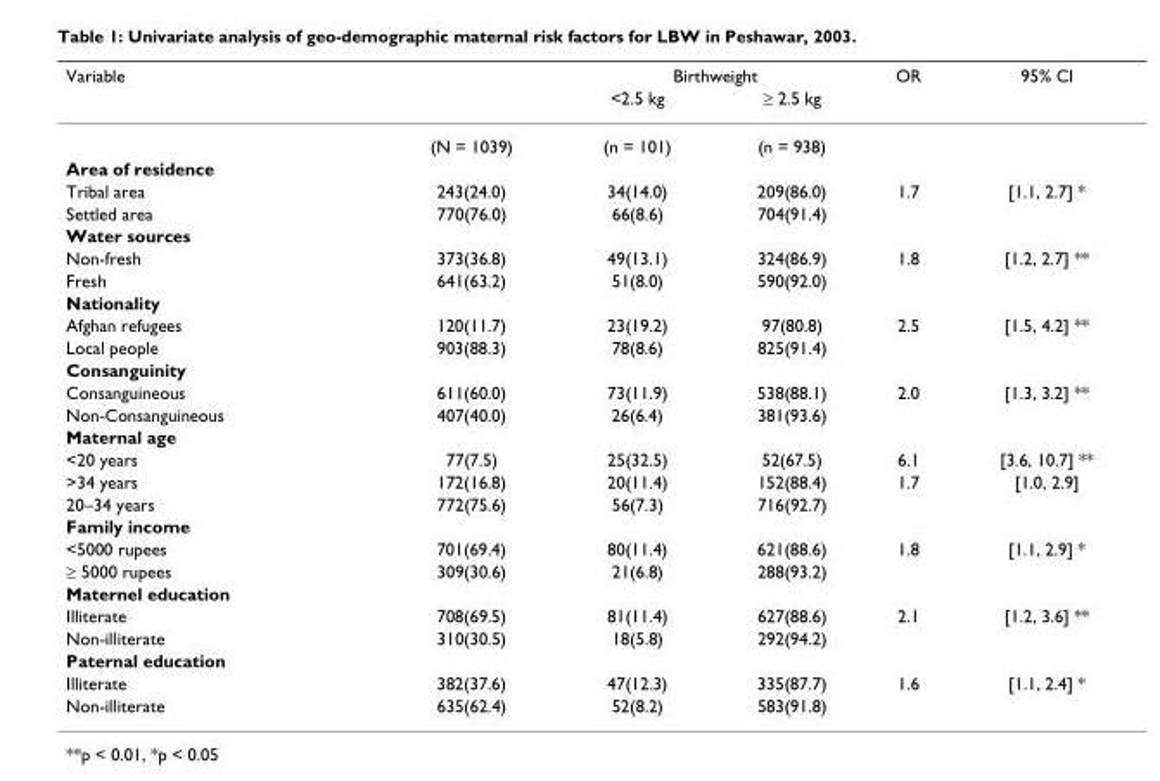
<table><thead><tr><td rowspan="2">Variable</td><td rowspan="2"></td><td colspan="2">Birthweight</td><td rowspan="2">OR</td><td rowspan="2">95% CI</td></tr><tr><td>&lt;2.5 kg</td><td>≥ 2.5 kg</td></tr></thead><tbody><tr><td></td><td>(N = 1039)</td><td>(n = 101)</td><td>(n = 938)</td><td></td><td></td></tr><tr><td colspan="6">Area of residence</td></tr><tr><td>Tribal area</td><td>243(24.0)</td><td>34(14.0)</td><td>209(86.0)</td><td>1.7</td><td>[1.1, 2.7] *</td></tr><tr><td>Settled area</td><td>770(76.0)</td><td>66(8.6)</td><td>704(91.4)</td><td></td><td></td></tr><tr><td colspan="6">Water sources</td></tr><tr><td>Non-fresh</td><td>373(36.8)</td><td>49(13.1)</td><td>324(86.9)</td><td>1.8</td><td>[1.2, 2.7] **</td></tr><tr><td>Fresh</td><td>641(63.2)</td><td>51(8.0)</td><td>590(92.0)</td><td></td><td></td></tr><tr><td colspan="6">Nationality</td></tr><tr><td>Afghan refugees</td><td>120(11.7)</td><td>23(19.2)</td><td>97(80.8)</td><td>2.5</td><td>[1.5, 4.2] **</td></tr><tr><td>Local people</td><td>903(88.3)</td><td>78(8.6)</td><td>825(91.4)</td><td></td><td></td></tr><tr><td colspan="6">Consanguinity</td></tr><tr><td>Consanguineous</td><td>611(60.0)</td><td>73(11.9)</td><td>538(88.1)</td><td>2.0</td><td>[1.3, 3.2] **</td></tr><tr><td>Non-Consanguineous</td><td>407(40.0)</td><td>26(6.4)</td><td>381(93.6)</td><td></td><td></td></tr><tr><td colspan="6">Maternal age</td></tr><tr><td>&lt;20 years</td><td>77(7.5)</td><td>25(32.5)</td><td>52(67.5)</td><td>6.1</td><td>[3.6, 10.7] **</td></tr><tr><td>&gt;34 years</td><td>172(16.8)</td><td>20(11.4)</td><td>152(88.4)</td><td>1.7</td><td>[1.0, 2.9]</td></tr><tr><td>20–34 years</td><td>772(75.6)</td><td>56(7.3)</td><td>716(92.7)</td><td></td><td></td></tr><tr><td colspan="6">Family income</td></tr><tr><td>&lt;5000 rupees</td><td>701(69.4)</td><td>80(11.4)</td><td>621(88.6)</td><td>1.8</td><td>[1.1, 2.9] *</td></tr><tr><td>≥ 5000 rupees</td><td>309(30.6)</td><td>21(6.8)</td><td>288(93.2)</td><td></td><td></td></tr><tr><td colspan="6">Maternel education</td></tr><tr><td>Illiterate</td><td>708(69.5)</td><td>81(11.4)</td><td>627(88.6)</td><td>2.1</td><td>[1.2, 3.6] **</td></tr><tr><td>Non-illiterate</td><td>310(30.5)</td><td>18(5.8)</td><td>292(94.2)</td><td></td><td></td></tr><tr><td colspan="6">Paternal education</td></tr><tr><td>Illiterate</td><td>382(37.6)</td><td>47(12.3)</td><td>335(87.7)</td><td>1.6</td><td>[1.1, 2.4] *</td></tr><tr><td>Non-illiterate</td><td>635(62.4)</td><td>52(8.2)</td><td>583(91.8)</td><td></td><td></td></tr></tbody></table>